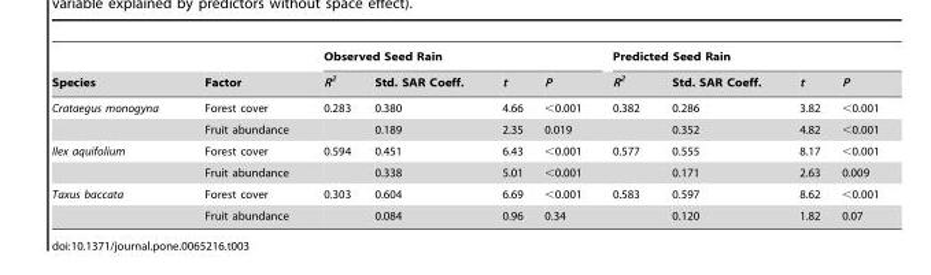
<table><thead><tr><td rowspan="2">Species</td><td rowspan="2">Factor</td><td colspan="4">Observed Seed Rain</td><td colspan="4">Predicted Seed Rain</td></tr><tr><td>R<sup>2</sup></td><td>Std. SAR Coeff.</td><td>t</td><td>P</td><td>R<sup>2</sup></td><td>Std. SAR Coeff.</td><td>t</td><td>P</td></tr></thead><tbody><tr><td rowspan="2">Crataegus monogyna</td><td>Forest cover</td><td>0.283</td><td>0.380</td><td>4.66</td><td>&lt;0.001</td><td>0.382</td><td>0.286</td><td>3.82</td><td>&lt;0.001</td></tr><tr><td>Fruit abundance</td><td></td><td>0.189</td><td>2.35</td><td>0.019</td><td></td><td>0.352</td><td>4.82</td><td>&lt;0.001</td></tr><tr><td rowspan="2">Ilex aquifolium</td><td>Forest cover</td><td>0.594</td><td>0.451</td><td>6.43</td><td>&lt;0.001</td><td>0.577</td><td>0.555</td><td>8.17</td><td>&lt;0.001</td></tr><tr><td>Fruit abundance</td><td></td><td>0.338</td><td>5.01</td><td>&lt;0.001</td><td></td><td>0.171</td><td>2.63</td><td>0.009</td></tr><tr><td rowspan="2">Taxus baccata</td><td>Forest cover</td><td>0.303</td><td>0.604</td><td>6.69</td><td>&lt;0.001</td><td>0.583</td><td>0.597</td><td>8.62</td><td>&lt;0.001</td></tr><tr><td>Fruit abundance</td><td></td><td>0.084</td><td>0.96</td><td>0.34</td><td></td><td>0.120</td><td>1.82</td><td>0.07</td></tr></tbody></table>